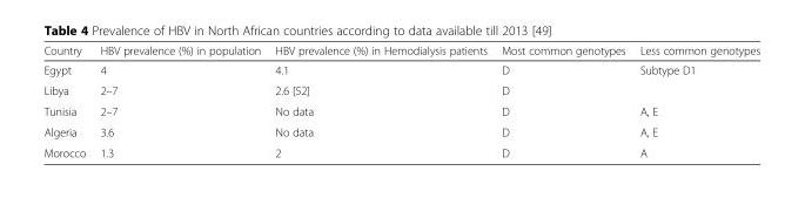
<table><thead><tr><td>Country</td><td>HBV prevalence (%) in population</td><td>HBV prevalence (%) in Hemodialysis patients</td><td>Most common genotypes</td><td>Less common genotypes</td></tr></thead><tbody><tr><td>Egypt</td><td>4</td><td>4.1</td><td>D</td><td>Subtype D1</td></tr><tr><td>Libya</td><td>2–7</td><td>2.6 [52]</td><td>D</td><td></td></tr><tr><td>Tunisia</td><td>2–7</td><td>No data</td><td>D</td><td>A, E</td></tr><tr><td>Algeria</td><td>3.6</td><td>No data</td><td>D</td><td>A, E</td></tr><tr><td>Morocco</td><td>1.3</td><td>2</td><td>D</td><td>A</td></tr></tbody></table>